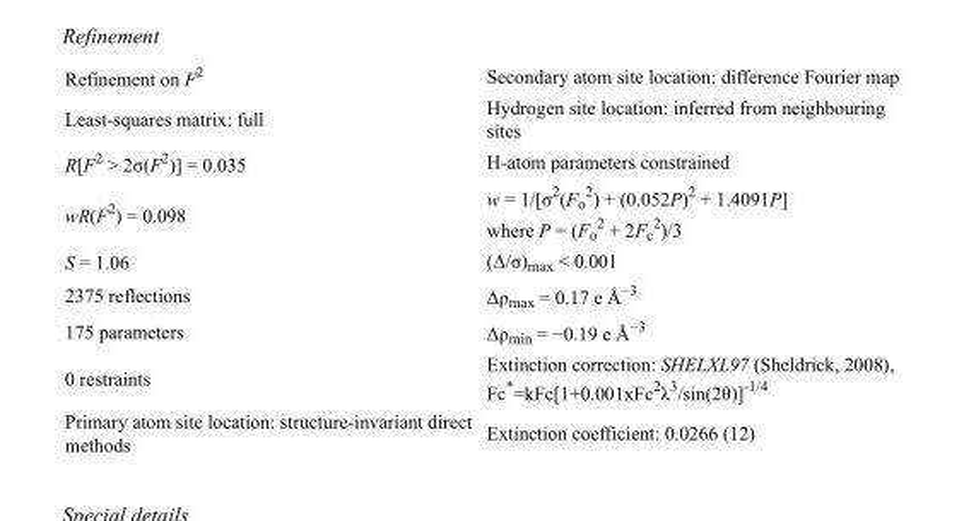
<table><tbody><tr><td>Refinement on F<sup>2</sup></td><td>Secondary atom site location: difference Fourier map</td></tr><tr><td>Least-squares matrix: full</td><td>Hydrogen site location: inferred from neighbouring sites</td></tr><tr><td>R[F<sup>2</sup> &gt; 2σ(F<sup>2</sup>)] = 0.035</td><td>H-atom parameters constrained</td></tr><tr><td>wR(F<sup>2</sup>) = 0.098</td><td>w = 1/[σ<sup>2</sup>(F<sub>o</sub> <sup>2</sup>) + (0.052P)<sup>2</sup> + 1.4091P] where P = (F<sub>o</sub> <sup>2</sup> + 2F<sub>c</sub> <sup>2</sup>)/3</td></tr><tr><td>S = 1.06</td><td>(Δ/σ)<sub>max</sub> &lt; 0.001</td></tr><tr><td>2375 reflections</td><td>Δρ<sub>max</sub> = 0.17 e Å<sup>−3</sup></td></tr><tr><td>175 parameters</td><td>Δρ<sub>min</sub> = −0.19 e Å<sup>−3</sup></td></tr><tr><td>0 restraints</td><td>Extinction correction: SHELXL97 (Sheldrick, 2008), Fc*=kFc[1+0.001xFc<sup>2</sup>λ<sup>3</sup>/sin(2θ)]<sup>-1/4</sup></td></tr><tr><td>Primary atom site location: structure-invariant direct methods</td><td>Extinction coefficient: 0.0266 (12)</td></tr></tbody></table>